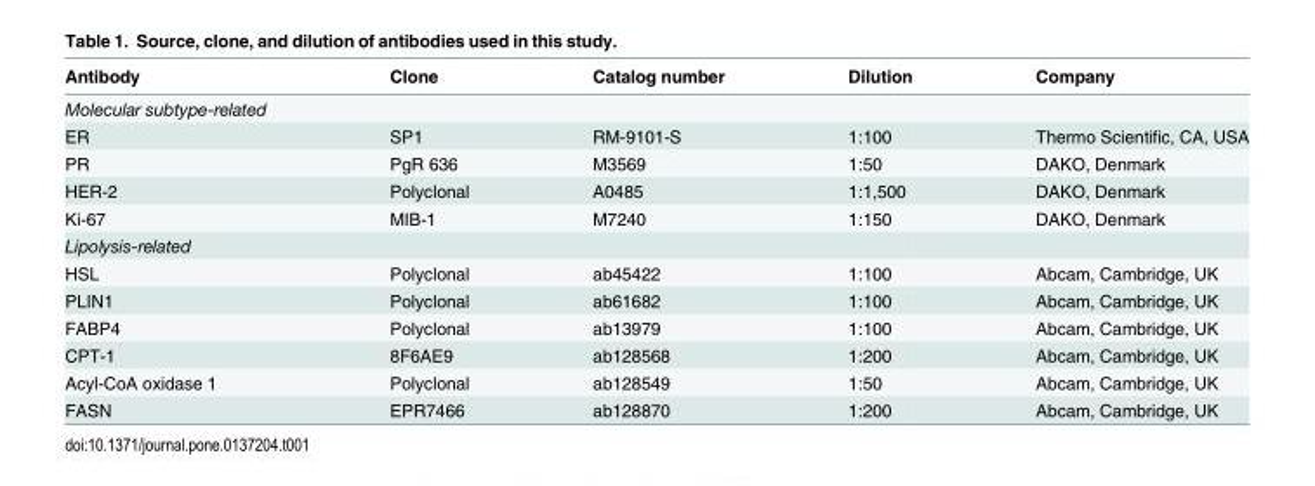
<table><thead><tr><td>Antibody</td><td>Clone</td><td>Catalog number</td><td>Dilution</td><td>Company</td></tr></thead><tbody><tr><td colspan="5">Molecular subtype-related</td></tr><tr><td>ER</td><td>SP1</td><td>RM-9101-S</td><td>1:100</td><td>Thermo Scientific, CA, USA</td></tr><tr><td>PR</td><td>PgR 636</td><td>M3569</td><td>1:50</td><td>DAKO, Denmark</td></tr><tr><td>HER-2</td><td>Polyclonal</td><td>A0485</td><td>1:1,500</td><td>DAKO, Denmark</td></tr><tr><td>Ki-67</td><td>MIB-1</td><td>M7240</td><td>1:150</td><td>DAKO, Denmark</td></tr><tr><td colspan="5">Lipolysis-related</td></tr><tr><td>HSL</td><td>Polyclonal</td><td>ab45422</td><td>1:100</td><td>Abcam, Cambridge, UK</td></tr><tr><td>PLIN1</td><td>Polyclonal</td><td>ab61682</td><td>1:100</td><td>Abcam, Cambridge, UK</td></tr><tr><td>FABP4</td><td>Polyclonal</td><td>ab13979</td><td>1:100</td><td>Abcam, Cambridge, UK</td></tr><tr><td>CPT-1</td><td>8F6AE9</td><td>ab128568</td><td>1:200</td><td>Abcam, Cambridge, UK</td></tr><tr><td>Acyl-CoA oxidase 1</td><td>Polyclonal</td><td>ab128549</td><td>1:50</td><td>Abcam, Cambridge, UK</td></tr><tr><td>FASN</td><td>EPR7466</td><td>ab128870</td><td>1:200</td><td>Abcam, Cambridge, UK</td></tr></tbody></table>